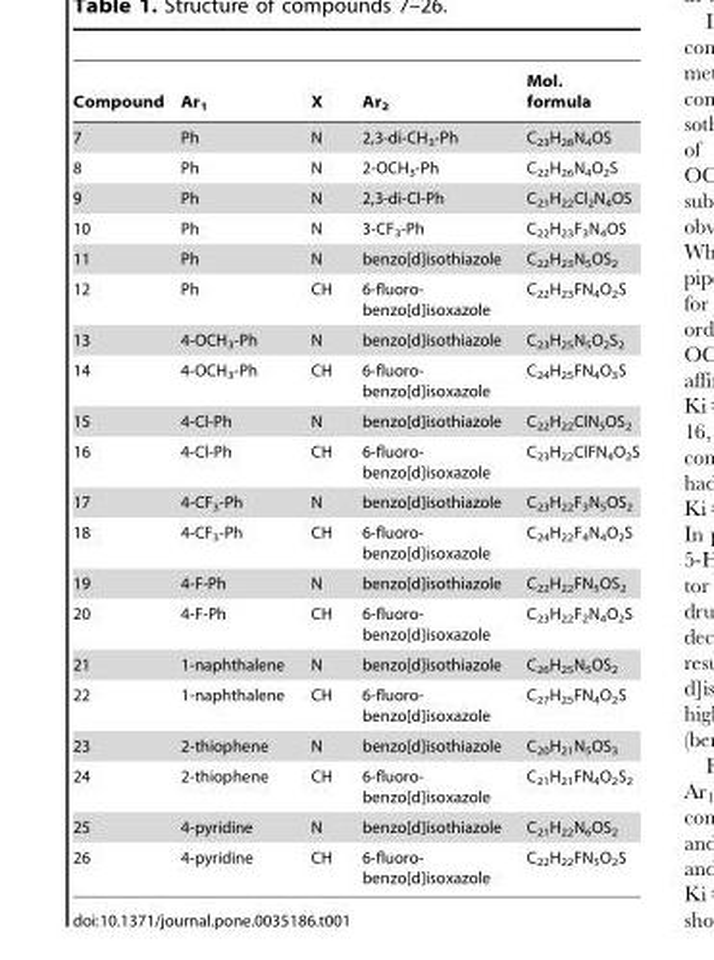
<table><thead><tr><td>Compound</td><td>Ar<sub>1</sub></td><td>X</td><td>Ar<sub>2</sub></td><td>Mol. formula</td></tr></thead><tbody><tr><td>7</td><td>Ph</td><td>N</td><td>2,3-di-CH<sub>3</sub>-Ph</td><td>C<sub>23</sub>H<sub>28</sub>N<sub>4</sub>OS</td></tr><tr><td>8</td><td>Ph</td><td>N</td><td>2-OCH<sub>3</sub>-Ph</td><td>C<sub>22</sub>H<sub>26</sub>N<sub>4</sub>O<sub>2</sub>S</td></tr><tr><td>9</td><td>Ph</td><td>N</td><td>2,3-di-Cl-Ph</td><td>C<sub>21</sub>H<sub>22</sub>Cl<sub>2</sub>N<sub>4</sub>OS</td></tr><tr><td>10</td><td>Ph</td><td>N</td><td>3-CF<sub>3</sub>-Ph</td><td>C<sub>22</sub>H<sub>23</sub>F<sub>3</sub>N<sub>4</sub>OS</td></tr><tr><td>11</td><td>Ph</td><td>N</td><td>benzo[d]isothiazole</td><td>C<sub>22</sub>H<sub>23</sub>N<sub>5</sub>OS<sub>2</sub></td></tr><tr><td>12</td><td>Ph</td><td>CH</td><td>6-fluoro- benzo[d]isoxazole</td><td>C<sub>22</sub>H<sub>23</sub>FN<sub>4</sub>O<sub>2</sub>S</td></tr><tr><td>13</td><td>4-OCH<sub>3</sub>-Ph</td><td>N</td><td>benzo[d]isothiazole</td><td>C<sub>23</sub>H<sub>25</sub>N<sub>5</sub>O<sub>2</sub>S<sub>2</sub></td></tr><tr><td>14</td><td>4-OCH<sub>3</sub>-Ph</td><td>CH</td><td>6-fluoro- benzo[d]isoxazole</td><td>C<sub>24</sub>H<sub>25</sub>FN<sub>4</sub>O<sub>3</sub>S</td></tr><tr><td>15</td><td>4-Cl-Ph</td><td>N</td><td>benzo[d]isothiazole</td><td>C<sub>22</sub>H<sub>22</sub>ClN<sub>5</sub>OS<sub>2</sub></td></tr><tr><td>16</td><td>4-Cl-Ph</td><td>CH</td><td>6-fluoro- benzo[d]isoxazole</td><td>C<sub>23</sub>H<sub>22</sub>ClFN<sub>4</sub>O<sub>2</sub>S</td></tr><tr><td>17</td><td>4-CF<sub>3</sub>-Ph</td><td>N</td><td>benzo[d]isothiazole</td><td>C<sub>23</sub>H<sub>22</sub>F<sub>3</sub>N<sub>5</sub>OS<sub>2</sub></td></tr><tr><td>18</td><td>4-CF<sub>3</sub>-Ph</td><td>CH</td><td>6-fluoro- benzo[d]isoxazole</td><td>C<sub>24</sub>H<sub>22</sub>F<sub>4</sub>N<sub>4</sub>O<sub>2</sub>S</td></tr><tr><td>19</td><td>4-F-Ph</td><td>N</td><td>benzo[d]isothiazole</td><td>C<sub>22</sub>H<sub>22</sub>FN<sub>5</sub>OS<sub>2</sub></td></tr><tr><td>20</td><td>4-F-Ph</td><td>CH</td><td>6-fluoro- benzo[d]isoxazole</td><td>C<sub>23</sub>H<sub>22</sub>F<sub>2</sub>N<sub>4</sub>O<sub>2</sub>S</td></tr><tr><td>21</td><td>1-naphthalene</td><td>N</td><td>benzo[d]isothiazole</td><td>C<sub>26</sub>H<sub>25</sub>N<sub>5</sub>OS<sub>2</sub></td></tr><tr><td>22</td><td>1-naphthalene</td><td>CH</td><td>6-fluoro- benzo[d]isoxazole</td><td>C<sub>27</sub>H<sub>25</sub>FN<sub>4</sub>O<sub>2</sub>S</td></tr><tr><td>23</td><td>2-thiophene</td><td>N</td><td>benzo[d]isothiazole</td><td>C<sub>20</sub>H<sub>21</sub>N<sub>5</sub>OS<sub>3</sub></td></tr><tr><td>24</td><td>2-thiophene</td><td>CH</td><td>6-fluoro- benzo[d]isoxazole</td><td>C<sub>21</sub>H<sub>21</sub>FN<sub>4</sub>O<sub>2</sub>S<sub>2</sub></td></tr><tr><td>25</td><td>4-pyridine</td><td>N</td><td>benzo[d]isothiazole</td><td>C<sub>21</sub>H<sub>22</sub>N<sub>6</sub>OS<sub>2</sub></td></tr><tr><td>26</td><td>4-pyridine</td><td>CH</td><td>6-fluoro- benzo[d]isoxazole</td><td>C<sub>22</sub>H<sub>22</sub>FN<sub>5</sub>O<sub>2</sub>S</td></tr></tbody></table>